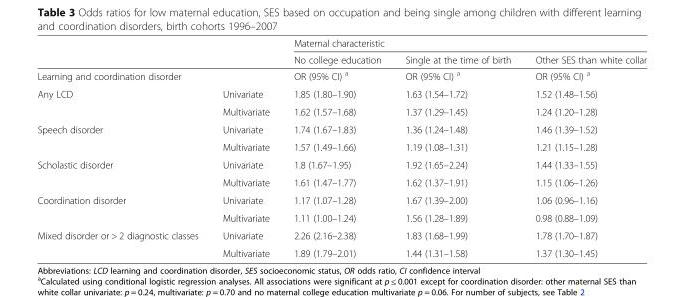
<table><thead><tr><td rowspan="2"></td><td rowspan="2"></td><td colspan="3">Maternal characteristic</td></tr><tr><td>No college education</td><td>Single at the time of birth</td><td>Other SES than white collar</td></tr></thead><tbody><tr><td colspan="2">Learning and coordination disorder</td><td>OR (95% CI) <sup>a</sup></td><td>OR (95% CI) <sup>a</sup></td><td>OR (95% CI) <sup>a</sup></td></tr><tr><td rowspan="2">Any LCD</td><td>Univariate</td><td>1.85 (1.80–1.90)</td><td>1.63 (1.54–1.72)</td><td>1.52 (1.48–1.56)</td></tr><tr><td>Multivariate</td><td>1.62 (1.57–1.68)</td><td>1.37 (1.29–1.45)</td><td>1.24 (1.20–1.28)</td></tr><tr><td rowspan="2">Speech disorder</td><td>Univariate</td><td>1.74 (1.67–1.83)</td><td>1.36 (1.24–1.48)</td><td>1.46 (1.39–1.52)</td></tr><tr><td>Multivariate</td><td>1.57 (1.49–1.66)</td><td>1.19 (1.08–1.31)</td><td>1.21 (1.15–1.28)</td></tr><tr><td rowspan="2">Scholastic disorder</td><td>Univariate</td><td>1.8 (1.67–1.95)</td><td>1.92 (1.65–2.24)</td><td>1.44 (1.33–1.55)</td></tr><tr><td>Multivariate</td><td>1.61 (1.47–1.77)</td><td>1.62 (1.37–1.91)</td><td>1.15 (1.06–1.26)</td></tr><tr><td rowspan="2">Coordination disorder</td><td>Univariate</td><td>1.17 (1.07–1.28)</td><td>1.67 (1.39–2.00)</td><td>1.06 (0.96–1.16)</td></tr><tr><td>Multivariate</td><td>1.11 (1.00–1.24)</td><td>1.56 (1.28–1.89)</td><td>0.98 (0.88–1.09)</td></tr><tr><td rowspan="2">Mixed disorder or &gt; 2 diagnostic classes</td><td>Univariate</td><td>2.26 (2.16–2.38)</td><td>1.83 (1.68–1.99)</td><td>1.78 (1.70–1.87)</td></tr><tr><td>Multivariate</td><td>1.89 (1.79–2.01)</td><td>1.44 (1.31–1.58)</td><td>1.37 (1.30–1.45)</td></tr></tbody></table>